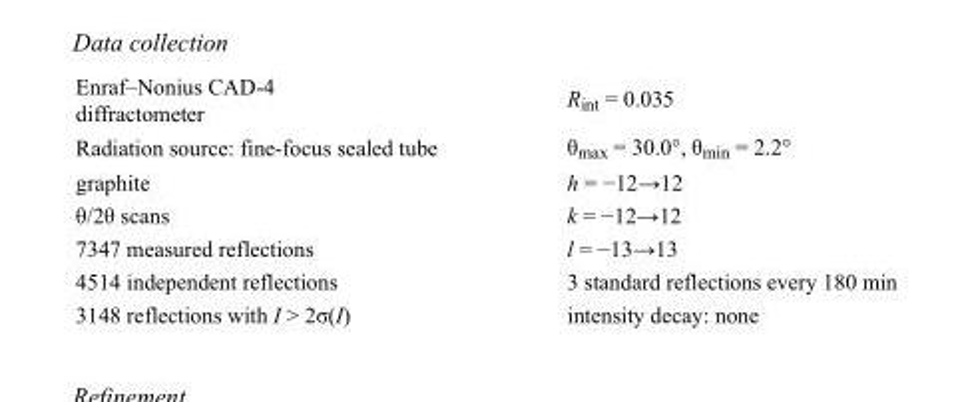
<table><tbody><tr><td>Enraf–Nonius CAD-4 diffractometer</td><td>R<sub>int</sub> = 0.035</td></tr><tr><td>Radiation source: fine-focus sealed tube</td><td>θ<sub>max</sub> = 30.0°, θ<sub>min</sub> = 2.2°</td></tr><tr><td>graphite</td><td>h = −12→12</td></tr><tr><td>θ/2θ scans</td><td>k = −12→12</td></tr><tr><td>7347 measured reflections</td><td>l = −13→13</td></tr><tr><td>4514 independent reflections</td><td>3 standard reflections every 180 min</td></tr><tr><td>3148 reflections with I &gt; 2σ(I)</td><td>intensity decay: none</td></tr></tbody></table>